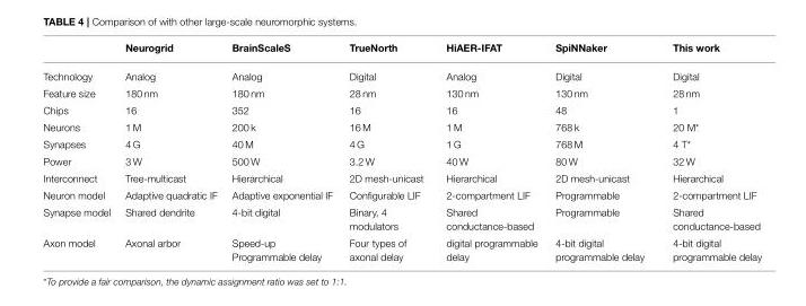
<table><thead><tr><td></td><td>Neurogrid</td><td>BrainScaleS</td><td>TrueNorth</td><td>HiAER-IFAT</td><td>SpiNNaker</td><td>This work</td></tr></thead><tbody><tr><td>Technology</td><td>Analog</td><td>Analog</td><td>Digital</td><td>Analog</td><td>Digital</td><td>Digital</td></tr><tr><td>Feature size</td><td>180 nm</td><td>180 nm</td><td>28 nm</td><td>130 nm</td><td>130 nm</td><td>28 nm</td></tr><tr><td>Chips</td><td>16</td><td>352</td><td>16</td><td>16</td><td>48</td><td>1</td></tr><tr><td>Neurons</td><td>1 M</td><td>200 k</td><td>16 M</td><td>1 M</td><td>768 k</td><td>20 M*</td></tr><tr><td>Synapses</td><td>4 G</td><td>40 M</td><td>4 G</td><td>1 G</td><td>768 M</td><td>4 T*</td></tr><tr><td>Power</td><td>3 W</td><td>500 W</td><td>3.2 W</td><td>40 W</td><td>80 W</td><td>32 W</td></tr><tr><td>Interconnect</td><td>Tree-multicast</td><td>Hierarchical</td><td>2D mesh-unicast</td><td>Hierarchical</td><td>2D mesh-unicast</td><td>Hierarchical</td></tr><tr><td>Neuron model</td><td>Adaptive quadratic IF</td><td>Adaptive exponential IF</td><td>Configurable LIF</td><td>2-compartment LIF</td><td>Programmable</td><td>2-compartment LIF</td></tr><tr><td>Synapse model</td><td>Shared dendrite</td><td>4-bit digital</td><td>Binary, 4 modulators</td><td>Shared conductance-based</td><td>Programmable</td><td>Shared conductance-based</td></tr><tr><td>Axon model</td><td>Axonal arbor</td><td>Speed-up Programmable delay</td><td>Four types of axonal delay</td><td>digital programmable delay</td><td>4-bit digital programmable delay</td><td>4-bit digital programmable delay</td></tr></tbody></table>